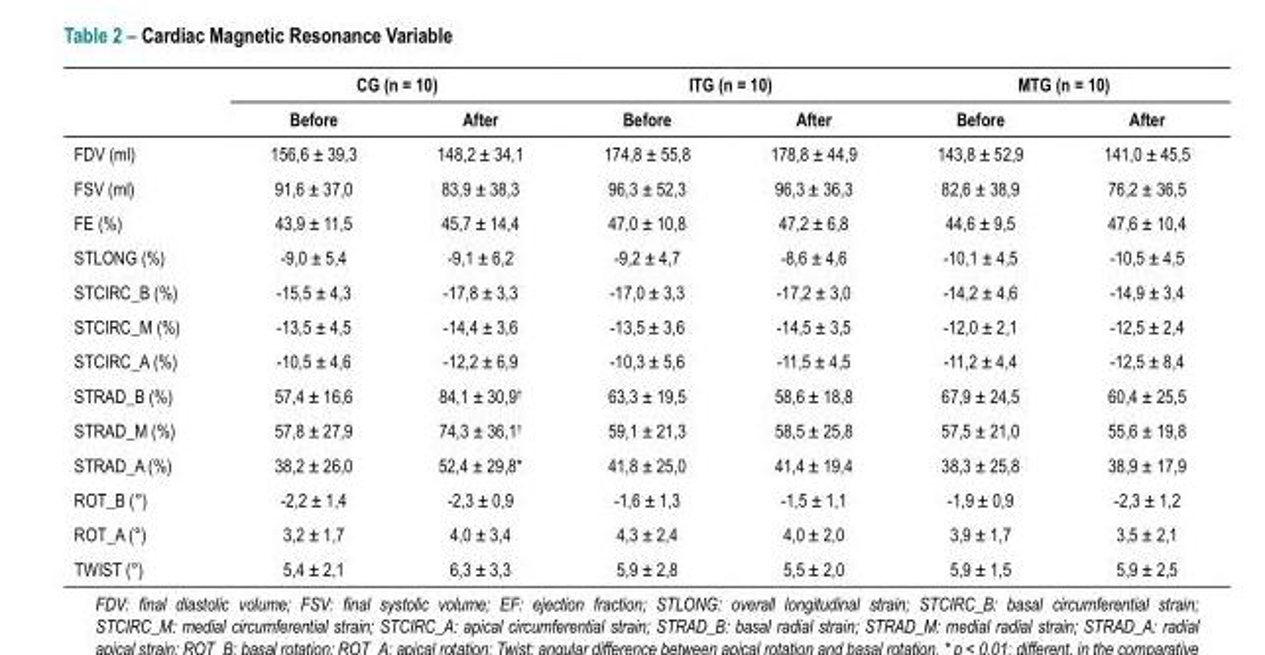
<table><thead><tr><td rowspan="2"></td><td colspan="2">CG (n = 10)</td><td colspan="2">ITG (n = 10)</td><td colspan="2">MTG (n = 10)</td></tr><tr><td>Before</td><td>After</td><td>Before</td><td>After</td><td>Before</td><td>After</td></tr></thead><tbody><tr><td>FDV (ml)</td><td>156,6 ± 39,3</td><td>148,2 ± 34,1</td><td>174,8 ± 55,8</td><td>178,8 ± 44,9</td><td>143,8 ± 52,9</td><td>141,0 ± 45,5</td></tr><tr><td>FSV (ml)</td><td>91,6 ± 37,0</td><td>83,9 ± 38,3</td><td>96,3 ± 52,3</td><td>96,3 ± 36,3</td><td>82,6 ± 38,9</td><td>76,2 ± 36,5</td></tr><tr><td>FE (%)</td><td>43,9 ± 11,5</td><td>45,7 ± 14,4</td><td>47,0 ± 10,8</td><td>47,2 ± 6,8</td><td>44,6 ± 9,5</td><td>47,6 ± 10,4</td></tr><tr><td>STLONG (%)</td><td>-9,0 ± 5,4</td><td>-9,1 ± 6,2</td><td>-9,2 ± 4,7</td><td>-8,6 ± 4,6</td><td>-10,1 ± 4,5</td><td>-10,5 ± 4,5</td></tr><tr><td>STCIRC_B (%)</td><td>-15,5 ± 4,3</td><td>-17,8 ± 3,3</td><td>-17,0 ± 3,3</td><td>-17,2 ± 3,0</td><td>-14,2 ± 4,6</td><td>-14,9 ± 3,4</td></tr><tr><td>STCIRC_M (%)</td><td>-13,5 ± 4,5</td><td>-14,4 ± 3,6</td><td>-13,5 ± 3,6</td><td>-14,5 ± 3,5</td><td>-12,0 ± 2,1</td><td>-12,5 ± 2,4</td></tr><tr><td>STCIRC_A (%)</td><td>-10,5 ± 4,6</td><td>-12,2 ± 6,9</td><td>-10,3 ± 5,6</td><td>-11,5 ± 4,5</td><td>-11,2 ± 4,4</td><td>-12,5 ± 8,4</td></tr><tr><td>STRAD_B (%)</td><td>57,4 ± 16,6</td><td>84,1 ± 30,9<sup>†</sup></td><td>63,3 ± 19,5</td><td>58,6 ± 18,8</td><td>67,9 ± 24,5</td><td>60,4 ± 25,5</td></tr><tr><td>STRAD_M (%)</td><td>57,8 ± 27,9</td><td>74,3 ± 36,1<sup>†</sup></td><td>59,1 ± 21,3</td><td>58,5 ± 25,8</td><td>57,5 ± 21,0</td><td>55,6 ± 19,8</td></tr><tr><td>STRAD_A (%)</td><td>38,2 ± 26,0</td><td>52,4 ± 29,8*</td><td>41,8 ± 25,0</td><td>41,4 ± 19,4</td><td>38,3 ± 25,8</td><td>38,9 ± 17,9</td></tr><tr><td>ROT_B (°)</td><td>-2,2 ± 1,4</td><td>-2,3 ± 0,9</td><td>-1,6 ± 1,3</td><td>-1,5 ± 1,1</td><td>-1,9 ± 0,9</td><td>-2,3 ± 1,2</td></tr><tr><td>ROT_A (°)</td><td>3,2 ± 1,7</td><td>4,0 ± 3,4</td><td>4,3 ± 2,4</td><td>4,0 ± 2,0</td><td>3,9 ± 1,7</td><td>3,5 ± 2,1</td></tr><tr><td>TWIST (°)</td><td>5,4 ± 2,1</td><td>6,3 ± 3,3</td><td>5,9 ± 2,8</td><td>5,5 ± 2,0</td><td>5,9 ± 1,5</td><td>5,9 ± 2,5</td></tr></tbody></table>